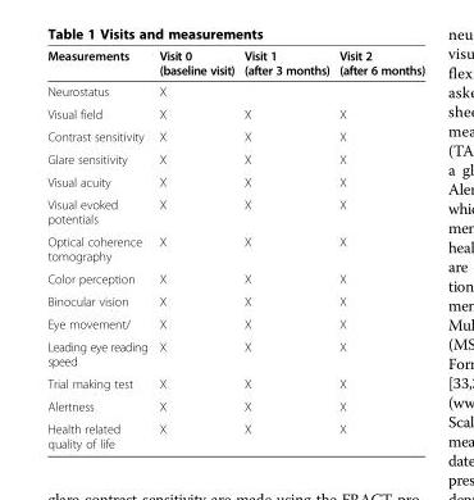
<table><thead><tr><td>Measurements</td><td>Visit 0 (baseline visit)</td><td>Visit 1 (after 3 months)</td><td>Visit 2 (after 6 months)</td></tr></thead><tbody><tr><td>Neurostatus</td><td>X</td><td></td><td></td></tr><tr><td>Visual field</td><td>X</td><td>X</td><td>X</td></tr><tr><td>Contrast sensitivity</td><td>X</td><td>X</td><td>X</td></tr><tr><td>Glare sensitivity</td><td>X</td><td>X</td><td>X</td></tr><tr><td>Visual acuity</td><td>X</td><td>X</td><td>X</td></tr><tr><td>Visual evoked potentials</td><td>X</td><td>X</td><td>X</td></tr><tr><td>Optical coherence tomography</td><td>X</td><td>X</td><td>X</td></tr><tr><td>Color perception</td><td>X</td><td>X</td><td>X</td></tr><tr><td>Binocular vision</td><td>X</td><td>X</td><td>X</td></tr><tr><td>Eye movement/</td><td>X</td><td>X</td><td>X</td></tr><tr><td>Leading eye reading speed</td><td>X</td><td>X</td><td>X</td></tr><tr><td>Trial making test</td><td>X</td><td>X</td><td>X</td></tr><tr><td>Alertness</td><td>X</td><td>X</td><td>X</td></tr><tr><td>Health related quality of life</td><td>X</td><td>X</td><td>X</td></tr></tbody></table>